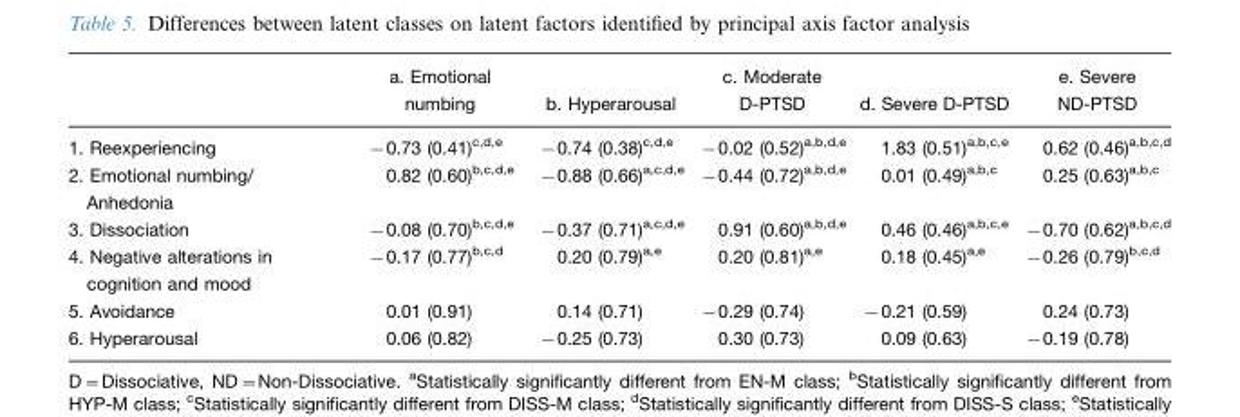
<table><thead><tr><td></td><td>a. Emotional numbing</td><td>b. Hyperarousal</td><td>c. Moderate D-PTSD</td><td>d. Severe D-PTSD</td><td>e. Severe ND-PTSD</td></tr></thead><tbody><tr><td>1. Reexperiencing</td><td>−0.73 (0.41)<sup>c</sup>,<sup>d</sup>,<sup>e</sup></td><td>−0.74 (0.38)<sup>c</sup>,<sup>d</sup>,<sup>e</sup></td><td>−0.02 (0.52)<sup>a</sup>,<sup>b</sup>,<sup>d</sup>,<sup>e</sup></td><td>1.83 (0.51)<sup>a</sup>,<sup>b</sup>,<sup>c</sup>,<sup>e</sup></td><td>0.62 (0.46)<sup>a</sup>,<sup>b</sup>,<sup>c</sup>,<sup>d</sup></td></tr><tr><td>2. Emotional numbing/ Anhedonia</td><td>0.82 (0.60)<sup>b</sup>,<sup>c</sup>,<sup>d</sup>,<sup>e</sup></td><td>−0.88 (0.66)<sup>a</sup>,<sup>c</sup>,<sup>d</sup>,<sup>e</sup></td><td>−0.44 (0.72)<sup>a</sup>,<sup>b</sup>,<sup>d</sup>,<sup>e</sup></td><td>0.01 (0.49)<sup>a</sup>,<sup>b</sup>,<sup>c</sup></td><td>0.25 (0.63)<sup>a</sup>,<sup>b</sup>,<sup>c</sup></td></tr><tr><td>3. Dissociation</td><td>−0.08 (0.70)<sup>b</sup>,<sup>c</sup>,<sup>d</sup>,<sup>e</sup></td><td>−0.37 (0.71)<sup>a</sup>,<sup>c</sup>,<sup>d</sup>,<sup>e</sup></td><td>0.91 (0.60)<sup>a</sup>,<sup>b</sup>,<sup>d</sup>,<sup>e</sup></td><td>0.46 (0.46)<sup>a</sup>,<sup>b</sup>,<sup>c</sup>,<sup>e</sup></td><td>−0.70 (0.62)<sup>a</sup>,<sup>b</sup>,<sup>c</sup>,<sup>d</sup></td></tr><tr><td>4. Negative alterations in cognition and mood</td><td>−0.17 (0.77)<sup>b</sup>,<sup>c</sup>,<sup>d</sup></td><td>0.20 (0.79)<sup>a</sup>,<sup>e</sup></td><td>0.20 (0.81)<sup>a</sup>,<sup>e</sup></td><td>0.18 (0.45)<sup>a</sup>,<sup>e</sup></td><td>−0.26 (0.79)<sup>b</sup>,<sup>c</sup>,<sup>d</sup></td></tr><tr><td>5. Avoidance</td><td>0.01 (0.91)</td><td>0.14 (0.71)</td><td>−0.29 (0.74)</td><td>−0.21 (0.59)</td><td>0.24 (0.73)</td></tr><tr><td>6. Hyperarousal</td><td>0.06 (0.82)</td><td>−0.25 (0.73)</td><td>0.30 (0.73)</td><td>0.09 (0.63)</td><td>−0.19 (0.78)</td></tr></tbody></table>